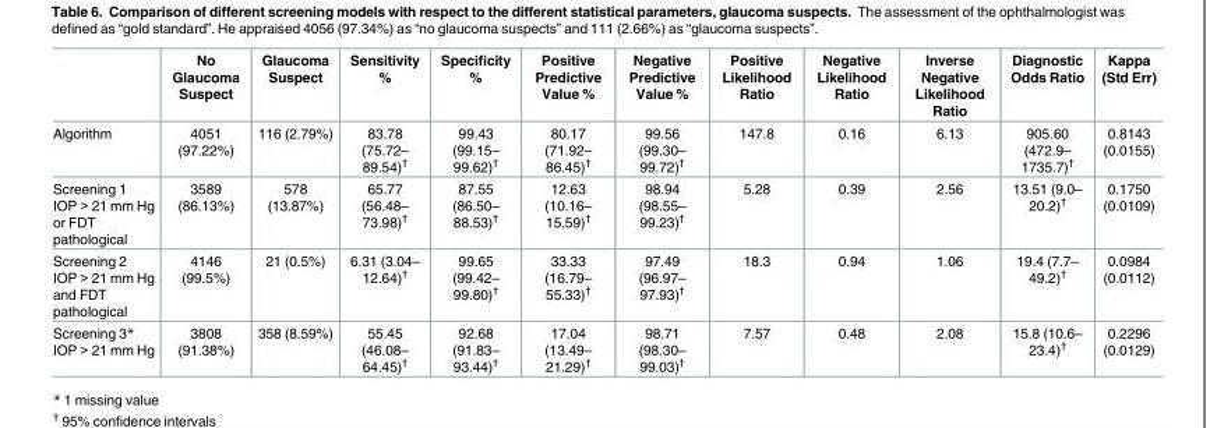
<table><thead><tr><td></td><td>No Glaucoma Suspect</td><td>Glaucoma Suspect</td><td>Sensitivity %</td><td>Specificity %</td><td>Positive Predictive Value %</td><td>Negative Predictive Value %</td><td>Positive Likelihood Ratio</td><td>Negative Likelihood Ratio</td><td>Inverse Negative Likelihood Ratio</td><td>Diagnostic Odds Ratio</td><td>Kappa (Std Err)</td></tr></thead><tbody><tr><td>Algorithm</td><td>4051 (97.22%)</td><td>116 (2.79%)</td><td>83.78 (75.72– 89.54)<sup>†</sup></td><td>99.43 (99.15– 99.62)<sup>†</sup></td><td>80.17 (71.92– 86.45)<sup>†</sup></td><td>99.56 (99.30– 99.72)<sup>†</sup></td><td>147.8</td><td>0.16</td><td>6.13</td><td>905.60 (472.9– 1735.7)<sup>†</sup></td><td>0.8143 (0.0155)</td></tr><tr><td>Screening 1 IOP &gt; 21 mm Hg or FDT pathological</td><td>3589 (86.13%)</td><td>578 (13.87%)</td><td>65.77 (56.48– 73.98)<sup>†</sup></td><td>87.55 (86.50– 88.53)<sup>†</sup></td><td>12.63 (10.16– 15.59)<sup>†</sup></td><td>98.94 (98.55– 99.23)<sup>†</sup></td><td>5.28</td><td>0.39</td><td>2.56</td><td>13.51 (9.0– 20.2)<sup>†</sup></td><td>0.1750 (0.0109)</td></tr><tr><td>Screening 2 IOP &gt; 21 mm Hg and FDT pathological</td><td>4146 (99.5%)</td><td>21 (0.5%)</td><td>6.31 (3.04– 12.64)<sup>†</sup></td><td>99.65 (99.42– 99.80)<sup>†</sup></td><td>33.33 (16.79– 55.33)<sup>†</sup></td><td>97.49 (96.97– 97.93)<sup>†</sup></td><td>18.3</td><td>0.94</td><td>1.06</td><td>19.4 (7.7– 49.2)<sup>†</sup></td><td>0.0984 (0.0112)</td></tr><tr><td>Screening 3* IOP &gt; 21 mm Hg</td><td>3808 (91.38%)</td><td>358 (8.59%)</td><td>55.45 (46.08– 64.45)<sup>†</sup></td><td>92.68 (91.83– 93.44)<sup>†</sup></td><td>17.04 (13.49– 21.29)<sup>†</sup></td><td>98.71 (98.30– 99.03)<sup>†</sup></td><td>7.57</td><td>0.48</td><td>2.08</td><td>15.8 (10.6– 23.4)<sup>†</sup></td><td>0.2296 (0.0129)</td></tr></tbody></table>